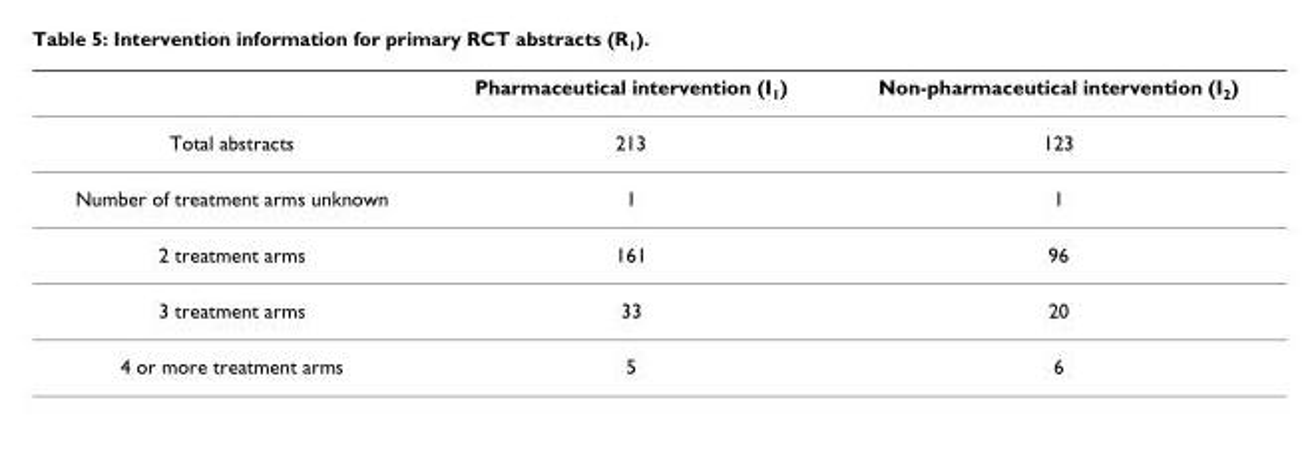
<table><thead><tr><td></td><td>Pharmaceutical intervention (I<sub>1</sub>)</td><td>Non-pharmaceutical intervention (I<sub>2</sub>)</td></tr></thead><tbody><tr><td>Total abstracts</td><td>213</td><td>123</td></tr><tr><td>Number of treatment arms unknown</td><td>1</td><td>1</td></tr><tr><td>2 treatment arms</td><td>161</td><td>96</td></tr><tr><td>3 treatment arms</td><td>33</td><td>20</td></tr><tr><td>4 or more treatment arms</td><td>5</td><td>6</td></tr></tbody></table>